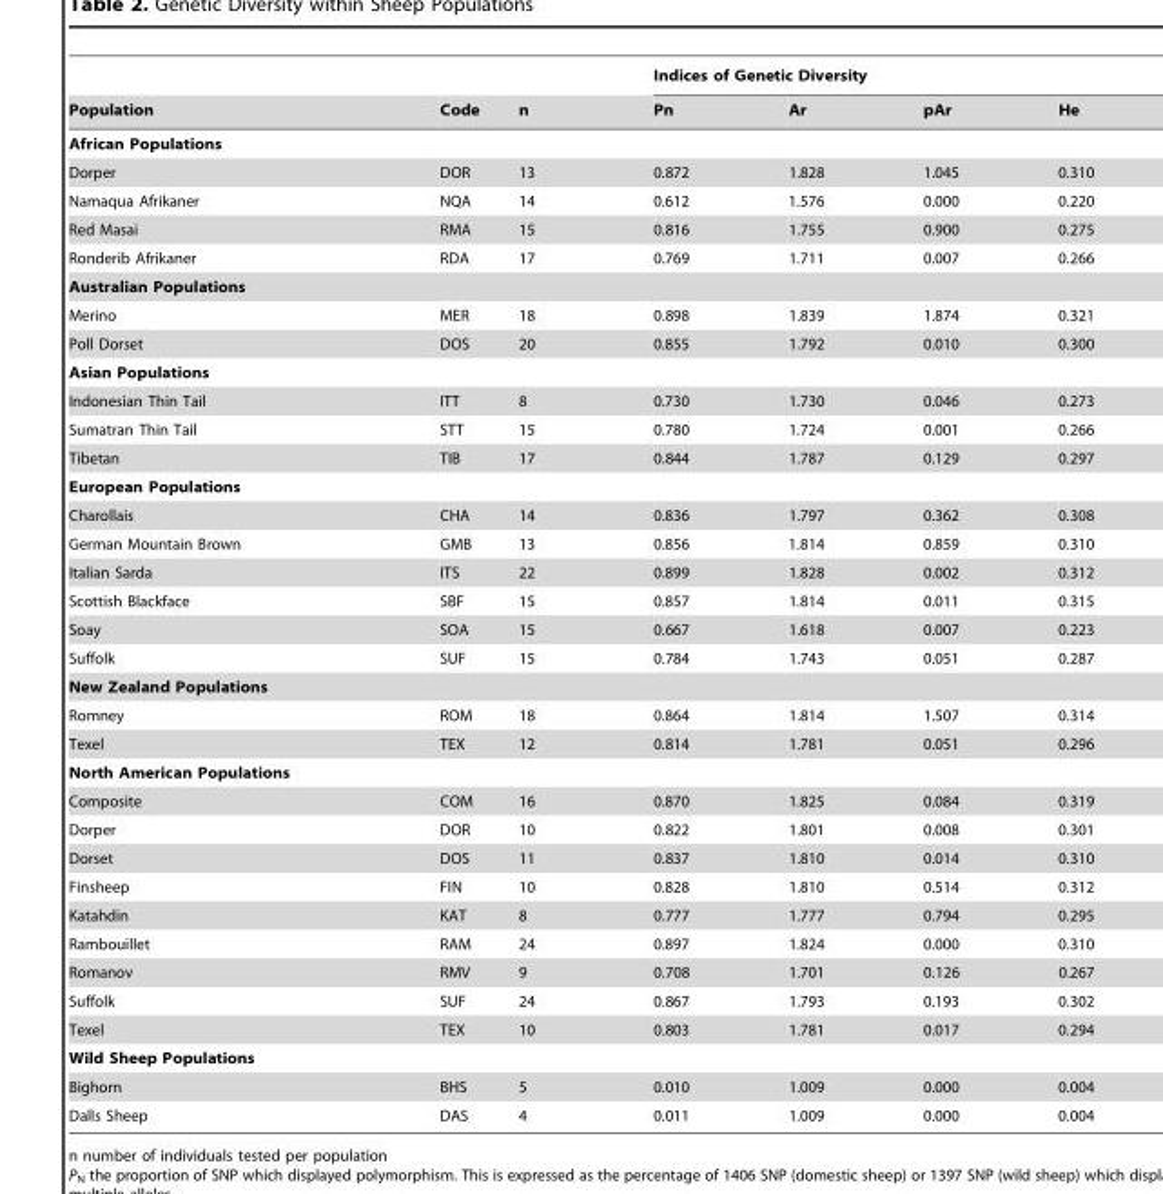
<table><thead><tr><td rowspan="2">Population</td><td rowspan="2">Code</td><td rowspan="2">n</td><td colspan="4">Indices of Genetic Diversity</td></tr><tr><td>Pn</td><td>Ar</td><td>pAr</td><td>He</td></tr></thead><tbody><tr><td colspan="7">African Populations</td></tr><tr><td>Dorper</td><td>DOR</td><td>13</td><td>0.872</td><td>1.828</td><td>1.045</td><td>0.310</td></tr><tr><td>Namaqua Afrikaner</td><td>NQA</td><td>14</td><td>0.612</td><td>1.576</td><td>0.000</td><td>0.220</td></tr><tr><td>Red Masai</td><td>RMA</td><td>15</td><td>0.816</td><td>1.755</td><td>0.900</td><td>0.275</td></tr><tr><td>Ronderib Afrikaner</td><td>RDA</td><td>17</td><td>0.769</td><td>1.711</td><td>0.007</td><td>0.266</td></tr><tr><td colspan="7">Australian Populations</td></tr><tr><td>Merino</td><td>MER</td><td>18</td><td>0.898</td><td>1.839</td><td>1.874</td><td>0.321</td></tr><tr><td>Poll Dorset</td><td>DOS</td><td>20</td><td>0.855</td><td>1.792</td><td>0.010</td><td>0.300</td></tr><tr><td colspan="7">Asian Populations</td></tr><tr><td>Indonesian Thin Tail</td><td>ITT</td><td>8</td><td>0.730</td><td>1.730</td><td>0.046</td><td>0.273</td></tr><tr><td>Sumatran Thin Tail</td><td>STT</td><td>15</td><td>0.780</td><td>1.724</td><td>0.001</td><td>0.266</td></tr><tr><td>Tibetan</td><td>TIB</td><td>17</td><td>0.844</td><td>1.787</td><td>0.129</td><td>0.297</td></tr><tr><td colspan="7">European Populations</td></tr><tr><td>Charollais</td><td>CHA</td><td>14</td><td>0.836</td><td>1.797</td><td>0.362</td><td>0.308</td></tr><tr><td>German Mountain Brown</td><td>GMB</td><td>13</td><td>0.856</td><td>1.814</td><td>0.859</td><td>0.310</td></tr><tr><td>Italian Sarda</td><td>ITS</td><td>22</td><td>0.899</td><td>1.828</td><td>0.002</td><td>0.312</td></tr><tr><td>Scottish Blackface</td><td>SBF</td><td>15</td><td>0.857</td><td>1.814</td><td>0.011</td><td>0.315</td></tr><tr><td>Soay</td><td>SOA</td><td>15</td><td>0.667</td><td>1.618</td><td>0.007</td><td>0.223</td></tr><tr><td>Suffolk</td><td>SUF</td><td>15</td><td>0.784</td><td>1.743</td><td>0.051</td><td>0.287</td></tr><tr><td colspan="7">New Zealand Populations</td></tr><tr><td>Romney</td><td>ROM</td><td>18</td><td>0.864</td><td>1.814</td><td>1.507</td><td>0.314</td></tr><tr><td>Texel</td><td>TEX</td><td>12</td><td>0.814</td><td>1.781</td><td>0.051</td><td>0.296</td></tr><tr><td colspan="7">North American Populations</td></tr><tr><td>Composite</td><td>COM</td><td>16</td><td>0.870</td><td>1.825</td><td>0.084</td><td>0.319</td></tr><tr><td>Dorper</td><td>DOR</td><td>10</td><td>0.822</td><td>1.801</td><td>0.008</td><td>0.301</td></tr><tr><td>Dorset</td><td>DOS</td><td>11</td><td>0.837</td><td>1.810</td><td>0.014</td><td>0.310</td></tr><tr><td>Finsheep</td><td>FIN</td><td>10</td><td>0.828</td><td>1.810</td><td>0.514</td><td>0.312</td></tr><tr><td>Katahdin</td><td>KAT</td><td>8</td><td>0.777</td><td>1.777</td><td>0.794</td><td>0.295</td></tr><tr><td>Rambouillet</td><td>RAM</td><td>24</td><td>0.897</td><td>1.824</td><td>0.000</td><td>0.310</td></tr><tr><td>Romanov</td><td>RMV</td><td>9</td><td>0.708</td><td>1.701</td><td>0.126</td><td>0.267</td></tr><tr><td>Suffolk</td><td>SUF</td><td>24</td><td>0.867</td><td>1.793</td><td>0.193</td><td>0.302</td></tr><tr><td>Texel</td><td>TEX</td><td>10</td><td>0.803</td><td>1.781</td><td>0.017</td><td>0.294</td></tr><tr><td colspan="7">Wild Sheep Populations</td></tr><tr><td>Bighorn</td><td>BHS</td><td>5</td><td>0.010</td><td>1.009</td><td>0.000</td><td>0.004</td></tr><tr><td>Dalls Sheep</td><td>DAS</td><td>4</td><td>0.011</td><td>1.009</td><td>0.000</td><td>0.004</td></tr></tbody></table>